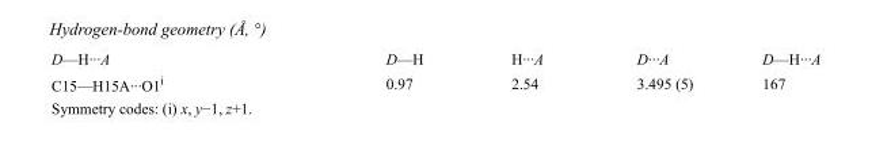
<table><tbody><tr><td>D—H···A</td><td>D—H</td><td>H···A</td><td>D···A</td><td>D—H···A</td></tr><tr><td>C15—H15A···O1<sup>i</sup></td><td>0.97</td><td>2.54</td><td>3.495 (5)</td><td>167</td></tr></tbody></table>